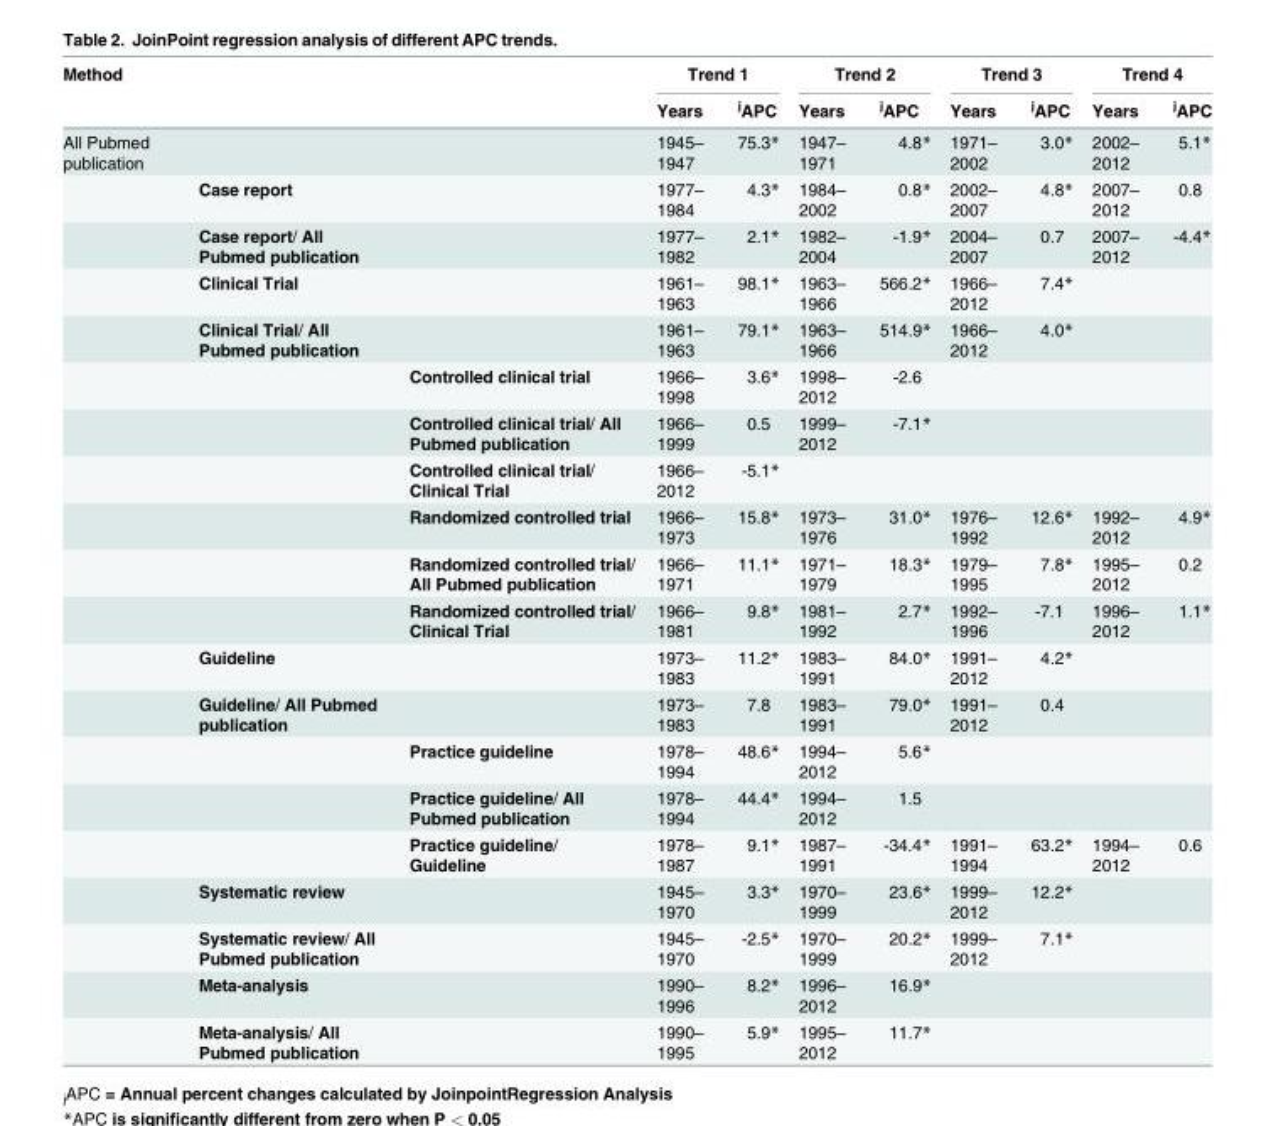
<table><thead><tr><td rowspan="2">Method</td><td rowspan="2"></td><td rowspan="2"></td><td colspan="2">Trend 1</td><td colspan="2">Trend 2</td><td colspan="2">Trend 3</td><td colspan="2">Trend 4</td></tr><tr><td>Years</td><td><sup>j</sup>APC</td><td>Years</td><td><sup>j</sup>APC</td><td>Years</td><td><sup>j</sup>APC</td><td>Years</td><td><sup>j</sup>APC</td></tr></thead><tbody><tr><td rowspan="20">All Pubmed publication</td><td></td><td></td><td>1945– 1947</td><td>75.3*</td><td>1947– 1971</td><td>4.8*</td><td>1971– 2002</td><td>3.0*</td><td>2002– 2012</td><td>5.1*</td></tr><tr><td>Case report</td><td></td><td>1977– 1984</td><td>4.3*</td><td>1984– 2002</td><td>0.8*</td><td>2002– 2007</td><td>4.8*</td><td>2007– 2012</td><td>0.8</td></tr><tr><td>Case report/ All Pubmed publication</td><td></td><td>1977– 1982</td><td>2.1*</td><td>1982– 2004</td><td>-1.9*</td><td>2004– 2007</td><td>0.7</td><td>2007– 2012</td><td>-4.4*</td></tr><tr><td>Clinical Trial</td><td></td><td>1961– 1963</td><td>98.1*</td><td>1963– 1966</td><td>566.2*</td><td>1966– 2012</td><td>7.4*</td><td></td><td></td></tr><tr><td>Clinical Trial/ All Pubmed publication</td><td></td><td>1961– 1963</td><td>79.1*</td><td>1963– 1966</td><td>514.9*</td><td>1966– 2012</td><td>4.0*</td><td></td><td></td></tr><tr><td></td><td>Controlled clinical trial</td><td>1966– 1998</td><td>3.6*</td><td>1998– 2012</td><td>-2.6</td><td></td><td></td><td></td><td></td></tr><tr><td></td><td>Controlled clinical trial/ All Pubmed publication</td><td>1966– 1999</td><td>0.5</td><td>1999– 2012</td><td>-7.1*</td><td></td><td></td><td></td><td></td></tr><tr><td></td><td>Controlled clinical trial/ Clinical Trial</td><td>1966– 2012</td><td>-5.1*</td><td></td><td></td><td></td><td></td><td></td><td></td></tr><tr><td></td><td>Randomized controlled trial</td><td>1966– 1973</td><td>15.8*</td><td>1973– 1976</td><td>31.0*</td><td>1976– 1992</td><td>12.6*</td><td>1992– 2012</td><td>4.9*</td></tr><tr><td></td><td>Randomized controlled trial/ All Pubmed publication</td><td>1966– 1971</td><td>11.1*</td><td>1971– 1979</td><td>18.3*</td><td>1979– 1995</td><td>7.8*</td><td>1995– 2012</td><td>0.2</td></tr><tr><td></td><td>Randomized controlled trial/ Clinical Trial</td><td>1966– 1981</td><td>9.8*</td><td>1981– 1992</td><td>2.7*</td><td>1992– 1996</td><td>-7.1</td><td>1996– 2012</td><td>1.1*</td></tr><tr><td>Guideline</td><td></td><td>1973– 1983</td><td>11.2*</td><td>1983– 1991</td><td>84.0*</td><td>1991– 2012</td><td>4.2*</td><td></td><td></td></tr><tr><td>Guideline/ All Pubmed publication</td><td></td><td>1973– 1983</td><td>7.8</td><td>1983– 1991</td><td>79.0*</td><td>1991– 2012</td><td>0.4</td><td></td><td></td></tr><tr><td></td><td>Practice guideline</td><td>1978– 1994</td><td>48.6*</td><td>1994– 2012</td><td>5.6*</td><td></td><td></td><td></td><td></td></tr><tr><td></td><td>Practice guideline/ All Pubmed publication</td><td>1978– 1994</td><td>44.4*</td><td>1994– 2012</td><td>1.5</td><td></td><td></td><td></td><td></td></tr><tr><td></td><td>Practice guideline/ Guideline</td><td>1978– 1987</td><td>9.1*</td><td>1987– 1991</td><td>-34.4*</td><td>1991– 1994</td><td>63.2*</td><td>1994– 2012</td><td>0.6</td></tr><tr><td>Systematic review</td><td></td><td>1945– 1970</td><td>3.3*</td><td>1970– 1999</td><td>23.6*</td><td>1999– 2012</td><td>12.2*</td><td></td><td></td></tr><tr><td>Systematic review/ All Pubmed publication</td><td></td><td>1945– 1970</td><td>-2.5*</td><td>1970– 1999</td><td>20.2*</td><td>1999– 2012</td><td>7.1*</td><td></td><td></td></tr><tr><td>Meta-analysis</td><td></td><td>1990– 1996</td><td>8.2*</td><td>1996– 2012</td><td>16.9*</td><td></td><td></td><td></td><td></td></tr><tr><td>Meta-analysis/ All Pubmed publication</td><td></td><td>1990– 1995</td><td>5.9*</td><td>1995– 2012</td><td>11.7*</td><td></td><td></td><td></td><td></td></tr></tbody></table>